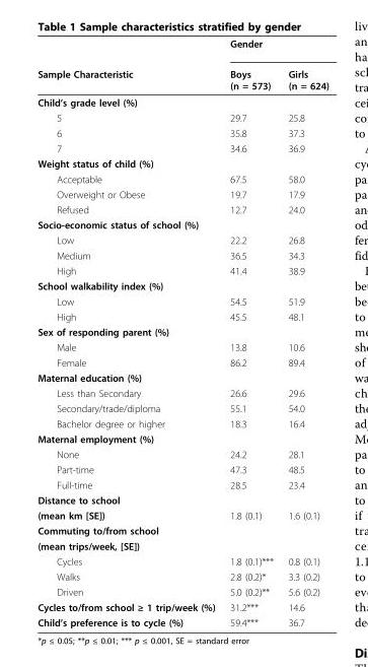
<table><thead><tr><td rowspan="2">Sample Characteristic</td><td colspan="2">Gender</td></tr><tr><td>Boys (n = 573)</td><td>Girls (n = 624)</td></tr></thead><tbody><tr><td colspan="3">Child’s grade level (%)</td></tr><tr><td>5</td><td>29.7</td><td>25.8</td></tr><tr><td>6</td><td>35.8</td><td>37.3</td></tr><tr><td>7</td><td>34.6</td><td>36.9</td></tr><tr><td colspan="3">Weight status of child (%)</td></tr><tr><td>Acceptable</td><td>67.5</td><td>58.0</td></tr><tr><td>Overweight or Obese</td><td>19.7</td><td>17.9</td></tr><tr><td>Refused</td><td>12.7</td><td>24.0</td></tr><tr><td colspan="3">Socio-economic status of school (%)</td></tr><tr><td>Low</td><td>22.2</td><td>26.8</td></tr><tr><td>Medium</td><td>36.5</td><td>34.3</td></tr><tr><td>High</td><td>41.4</td><td>38.9</td></tr><tr><td colspan="3">School walkability index (%)</td></tr><tr><td>Low</td><td>54.5</td><td>51.9</td></tr><tr><td>High</td><td>45.5</td><td>48.1</td></tr><tr><td colspan="3">Sex of responding parent (%)</td></tr><tr><td>Male</td><td>13.8</td><td>10.6</td></tr><tr><td>Female</td><td>86.2</td><td>89.4</td></tr><tr><td colspan="3">Maternal education (%)</td></tr><tr><td>Less than Secondary</td><td>26.6</td><td>29.6</td></tr><tr><td>Secondary/trade/diploma</td><td>55.1</td><td>54.0</td></tr><tr><td>Bachelor degree or higher</td><td>18.3</td><td>16.4</td></tr><tr><td colspan="3">Maternal employment (%)</td></tr><tr><td>None</td><td>24.2</td><td>28.1</td></tr><tr><td>Part-time</td><td>47.3</td><td>48.5</td></tr><tr><td>Full-time</td><td>28.5</td><td>23.4</td></tr><tr><td colspan="3">Distance to school</td></tr><tr><td>(mean km [SE])</td><td>1.8 (0.1)</td><td>1.6 (0.1)</td></tr><tr><td colspan="3">Commuting to/from school</td></tr><tr><td colspan="3">(mean trips/week, [SE])</td></tr><tr><td>Cycles</td><td>1.8 (0.1)***</td><td>0.8 (0.1)</td></tr><tr><td>Walks</td><td>2.8 (0.2)*</td><td>3.3 (0.2)</td></tr><tr><td>Driven</td><td>5.0 (0.2)**</td><td>5.6 (0.2)</td></tr><tr><td>Cycles to/from school ≥ 1 trip/week (%)</td><td>31.2***</td><td>14.6</td></tr><tr><td>Child’s preference is to cycle (%)</td><td>59.4***</td><td>36.7</td></tr></tbody></table>